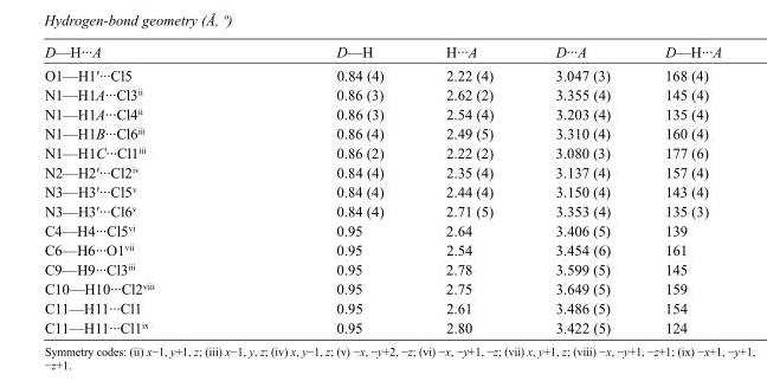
<table><tbody><tr><td>D—H···A</td><td>D—H</td><td>H···A</td><td>D···A</td><td>D—H···A</td></tr><tr><td>O1—H1′···Cl5</td><td>0.84 (4)</td><td>2.22 (4)</td><td>3.047 (3)</td><td>168 (4)</td></tr><tr><td>N1—H1A···Cl3<sup>ii</sup></td><td>0.86 (3)</td><td>2.62 (2)</td><td>3.355 (4)</td><td>145 (4)</td></tr><tr><td>N1—H1A···Cl4<sup>ii</sup></td><td>0.86 (3)</td><td>2.54 (4)</td><td>3.203 (4)</td><td>135 (4)</td></tr><tr><td>N1—H1B···Cl6<sup>iii</sup></td><td>0.86 (4)</td><td>2.49 (5)</td><td>3.310 (4)</td><td>160 (4)</td></tr><tr><td>N1—H1C···Cl1<sup>iii</sup></td><td>0.86 (2)</td><td>2.22 (2)</td><td>3.080 (3)</td><td>177 (6)</td></tr><tr><td>N2—H2′···Cl2<sup>iv</sup></td><td>0.84 (4)</td><td>2.35 (4)</td><td>3.137 (4)</td><td>157 (4)</td></tr><tr><td>N3—H3′···Cl5<sup>v</sup></td><td>0.84 (4)</td><td>2.44 (4)</td><td>3.150 (4)</td><td>143 (4)</td></tr><tr><td>N3—H3′···Cl6<sup>v</sup></td><td>0.84 (4)</td><td>2.71 (5)</td><td>3.353 (4)</td><td>135 (3)</td></tr><tr><td>C4—H4···Cl5<sup>vi</sup></td><td>0.95</td><td>2.64</td><td>3.406 (5)</td><td>139</td></tr><tr><td>C6—H6···O1<sup>vii</sup></td><td>0.95</td><td>2.54</td><td>3.454 (6)</td><td>161</td></tr><tr><td>C9—H9···Cl3<sup>iii</sup></td><td>0.95</td><td>2.78</td><td>3.599 (5)</td><td>145</td></tr><tr><td>C10—H10···Cl2<sup>viii</sup></td><td>0.95</td><td>2.75</td><td>3.649 (5)</td><td>159</td></tr><tr><td>C11—H11···Cl1</td><td>0.95</td><td>2.61</td><td>3.486 (5)</td><td>154</td></tr><tr><td>C11—H11···Cl1<sup>ix</sup></td><td>0.95</td><td>2.80</td><td>3.422 (5)</td><td>124</td></tr></tbody></table>